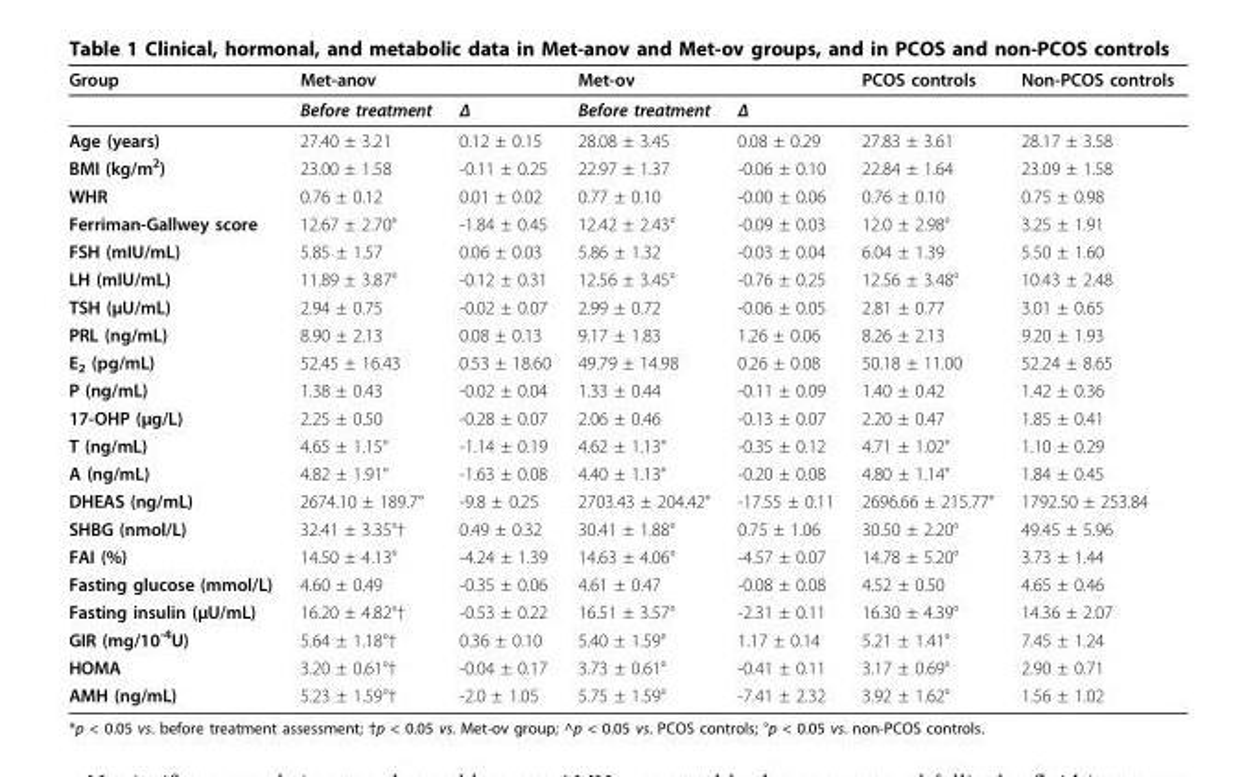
<table><thead><tr><td rowspan="2">Group</td><td colspan="2">Met-anov</td><td colspan="2">Met-ov</td><td rowspan="2">PCOS controls</td><td rowspan="2">Non-PCOS controls</td></tr><tr><td>Before treatment</td><td>Δ</td><td>Before treatment</td><td>Δ</td></tr></thead><tbody><tr><td>Age (years)</td><td>27.40 ± 3.21</td><td>0.12 ± 0.15</td><td>28.08 ± 3.45</td><td>0.08 ± 0.29</td><td>27.83 ± 3.61</td><td>28.17 ± 3.58</td></tr><tr><td>BMI (kg/m<sup>2</sup>)</td><td>23.00 ± 1.58</td><td>-0.11 ± 0.25</td><td>22.97 ± 1.37</td><td>-0.06 ± 0.10</td><td>22.84 ± 1.64</td><td>23.09 ± 1.58</td></tr><tr><td>WHR</td><td>0.76 ± 0.12</td><td>0.01 ± 0.02</td><td>0.77 ± 0.10</td><td>-0.00 ± 0.06</td><td>0.76 ± 0.10</td><td>0.75 ± 0.98</td></tr><tr><td>Ferriman-Gallwey score</td><td>12.67 ± 2.70°</td><td>-1.84 ± 0.45</td><td>12.42 ± 2.43°</td><td>-0.09 ± 0.03</td><td>12.0 ± 2.98°</td><td>3.25 ± 1.91</td></tr><tr><td>FSH (mIU/mL)</td><td>5.85 ± 1.57</td><td>0.06 ± 0.03</td><td>5.86 ± 1.32</td><td>-0.03 ± 0.04</td><td>6.04 ± 1.39</td><td>5.50 ± 1.60</td></tr><tr><td>LH (mIU/mL)</td><td>11.89 ± 3.87°</td><td>-0.12 ± 0.31</td><td>12.56 ± 3.45°</td><td>-0.76 ± 0.25</td><td>12.56 ± 3.48°</td><td>10.43 ± 2.48</td></tr><tr><td>TSH (μU/mL)</td><td>2.94 ± 0.75</td><td>-0.02 ± 0.07</td><td>2.99 ± 0.72</td><td>-0.06 ± 0.05</td><td>2.81 ± 0.77</td><td>3.01 ± 0.65</td></tr><tr><td>PRL (ng/mL)</td><td>8.90 ± 2.13</td><td>0.08 ± 0.13</td><td>9.17 ± 1.83</td><td>1.26 ± 0.06</td><td>8.26 ± 2.13</td><td>9.20 ± 1.93</td></tr><tr><td>E<sub>2</sub> (pg/mL)</td><td>52.45 ± 16.43</td><td>0.53 ± 18.60</td><td>49.79 ± 14.98</td><td>0.26 ± 0.08</td><td>50.18 ± 11.00</td><td>52.24 ± 8.65</td></tr><tr><td>P (ng/mL)</td><td>1.38 ± 0.43</td><td>-0.02 ± 0.04</td><td>1.33 ± 0.44</td><td>-0.11 ± 0.09</td><td>1.40 ± 0.42</td><td>1.42 ± 0.36</td></tr><tr><td>17-OHP (μg/L)</td><td>2.25 ± 0.50</td><td>-0.28 ± 0.07</td><td>2.06 ± 0.46</td><td>-0.13 ± 0.07</td><td>2.20 ± 0.47</td><td>1.85 ± 0.41</td></tr><tr><td>T (ng/mL)</td><td>4.65 ± 1.15°</td><td>-1.14 ± 0.19</td><td>4.62 ± 1.13°</td><td>-0.35 ± 0.12</td><td>4.71 ± 1.02°</td><td>1.10 ± 0.29</td></tr><tr><td>A (ng/mL)</td><td>4.82 ± 1.91°</td><td>-1.63 ± 0.08</td><td>4.40 ± 1.13°</td><td>-0.20 ± 0.08</td><td>4.80 ± 1.14°</td><td>1.84 ± 0.45</td></tr><tr><td>DHEAS (ng/mL)</td><td>2674.10 ± 189.7°</td><td>-9.8 ± 0.25</td><td>2703.43 ± 204.42°</td><td>-17.55 ± 0.11</td><td>2696.66 ± 215.77°</td><td>1792.50 ± 253.84</td></tr><tr><td>SHBG (nmol/L)</td><td>32.41 ± 3.35°†</td><td>0.49 ± 0.32</td><td>30.41 ± 1.88°</td><td>0.75 ± 1.06</td><td>30.50 ± 2.20°</td><td>49.45 ± 5.96</td></tr><tr><td>FAI (%)</td><td>14.50 ± 4.13°</td><td>-4.24 ± 1.39</td><td>14.63 ± 4.06°</td><td>-4.57 ± 0.07</td><td>14.78 ± 5.20°</td><td>3.73 ± 1.44</td></tr><tr><td>Fasting glucose (mmol/L)</td><td>4.60 ± 0.49</td><td>-0.35 ± 0.06</td><td>4.61 ± 0.47</td><td>-0.08 ± 0.08</td><td>4.52 ± 0.50</td><td>4.65 ± 0.46</td></tr><tr><td>Fasting insulin (μU/mL)</td><td>16.20 ± 4.82°†</td><td>-0.53 ± 0.22</td><td>16.51 ± 3.57°</td><td>-2.31 ± 0.11</td><td>16.30 ± 4.39°</td><td>14.36 ± 2.07</td></tr><tr><td>GIR (mg/10<sup>-4</sup>U)</td><td>5.64 ± 1.18°†</td><td>0.36 ± 0.10</td><td>5.40 ± 1.59°</td><td>1.17 ± 0.14</td><td>5.21 ± 1.41°</td><td>7.45 ± 1.24</td></tr><tr><td>HOMA</td><td>3.20 ± 0.61°†</td><td>-0.04 ± 0.17</td><td>3.73 ± 0.61°</td><td>-0.41 ± 0.11</td><td>3.17 ± 0.69°</td><td>2.90 ± 0.71</td></tr><tr><td>AMH (ng/mL)</td><td>5.23 ± 1.59°†</td><td>-2.0 ± 1.05</td><td>5.75 ± 1.59°</td><td>-7.41 ± 2.32</td><td>3.92 ± 1.62°</td><td>1.56 ± 1.02</td></tr></tbody></table>